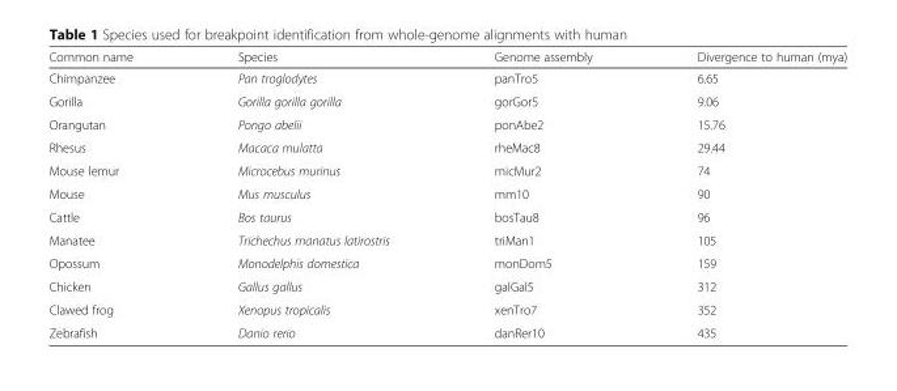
<table><thead><tr><td>Common name</td><td>Species</td><td>Genome assembly</td><td>Divergence to human (mya)</td></tr></thead><tbody><tr><td>Chimpanzee</td><td>Pan troglodytes</td><td>panTro5</td><td>6.65</td></tr><tr><td>Gorilla</td><td>Gorilla gorilla gorilla</td><td>gorGor5</td><td>9.06</td></tr><tr><td>Orangutan</td><td>Pongo abelii</td><td>ponAbe2</td><td>15.76</td></tr><tr><td>Rhesus</td><td>Macaca mulatta</td><td>rheMac8</td><td>29.44</td></tr><tr><td>Mouse lemur</td><td>Microcebus murinus</td><td>micMur2</td><td>74</td></tr><tr><td>Mouse</td><td>Mus musculus</td><td>mm10</td><td>90</td></tr><tr><td>Cattle</td><td>Bos taurus</td><td>bosTau8</td><td>96</td></tr><tr><td>Manatee</td><td>Trichechus manatus latirostris</td><td>triMan1</td><td>105</td></tr><tr><td>Opossum</td><td>Monodelphis domestica</td><td>monDom5</td><td>159</td></tr><tr><td>Chicken</td><td>Gallus gallus</td><td>galGal5</td><td>312</td></tr><tr><td>Clawed frog</td><td>Xenopus tropicalis</td><td>xenTro7</td><td>352</td></tr><tr><td>Zebrafish</td><td>Danio rerio</td><td>danRer10</td><td>435</td></tr></tbody></table>